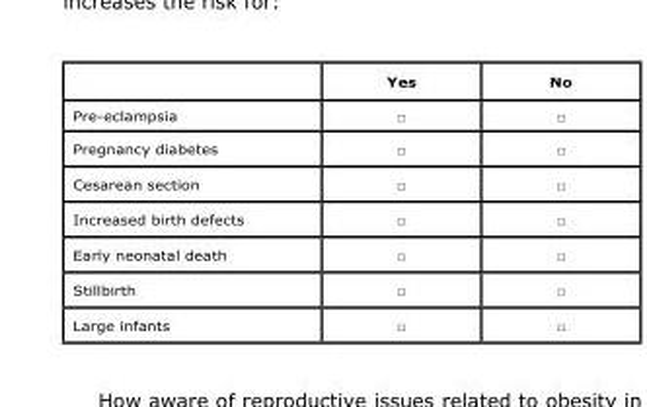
<table><thead><tr><td></td><td>Yes</td><td>No</td></tr></thead><tbody><tr><td>Pre-eclampsia</td><td>□</td><td>□</td></tr><tr><td>Pregnancy diabetes</td><td>□</td><td>□</td></tr><tr><td>Cesarean section</td><td>□</td><td>□</td></tr><tr><td>Increased birth defects</td><td>□</td><td>□</td></tr><tr><td>Early neonatal death</td><td>□</td><td>□</td></tr><tr><td>Stillbirth</td><td>□</td><td>□</td></tr><tr><td>Large infants</td><td>□</td><td>□</td></tr></tbody></table>